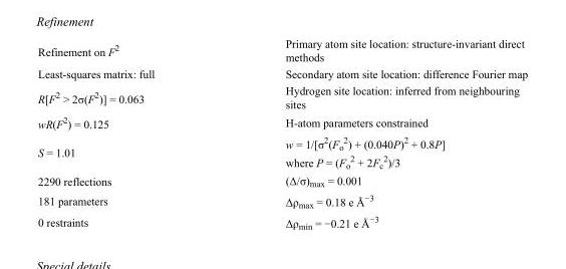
<table><tbody><tr><td>Refinement on F<sup>2</sup></td><td>Primary atom site location: structure-invariant direct methods</td></tr><tr><td>Least-squares matrix: full</td><td>Secondary atom site location: difference Fourier map</td></tr><tr><td>R[F<sup>2</sup> &gt; 2σ(F<sup>2</sup>)] = 0.063</td><td>Hydrogen site location: inferred from neighbouring sites</td></tr><tr><td>wR(F<sup>2</sup>) = 0.125</td><td>H-atom parameters constrained</td></tr><tr><td>S = 1.01</td><td>w = 1/[σ<sup>2</sup>(F<sub>o</sub> <sup>2</sup>) + (0.040P)<sup>2</sup> + 0.8P] where P = (F<sub>o</sub> <sup>2</sup> + 2F<sub>c</sub> <sup>2</sup>)/3</td></tr><tr><td>2290 reflections</td><td>(Δ/σ)<sub>max</sub> = 0.001</td></tr><tr><td>181 parameters</td><td>Δρ<sub>max</sub> = 0.18 e Å<sup>−3</sup></td></tr><tr><td>0 restraints</td><td>Δρ<sub>min</sub> = −0.21 e Å<sup>−3</sup></td></tr></tbody></table>